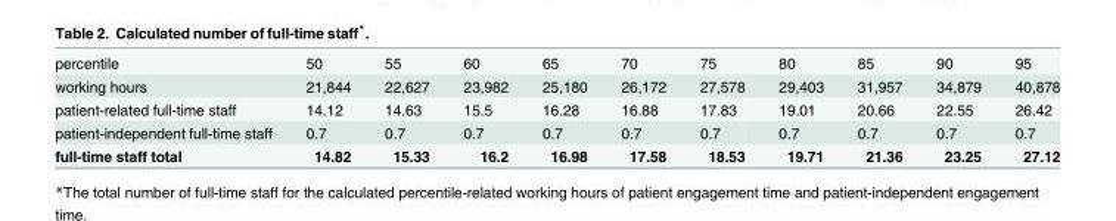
<table><tbody><tr><td>percentile</td><td>50</td><td>55</td><td>60</td><td>65</td><td>70</td><td>75</td><td>80</td><td>85</td><td>90</td><td>95</td></tr><tr><td>working hours</td><td>21,844</td><td>22,627</td><td>23,982</td><td>25,180</td><td>26,172</td><td>27,578</td><td>29,403</td><td>31,957</td><td>34,879</td><td>40,878</td></tr><tr><td>patient-related full-time staff</td><td>14.12</td><td>14.63</td><td>15.5</td><td>16.28</td><td>16.88</td><td>17.83</td><td>19.01</td><td>20.66</td><td>22.55</td><td>26.42</td></tr><tr><td>patient-independent full-time staff</td><td>0.7</td><td>0.7</td><td>0.7</td><td>0.7</td><td>0.7</td><td>0.7</td><td>0.7</td><td>0.7</td><td>0.7</td><td>0.7</td></tr><tr><td>full-time staff total</td><td>14.82</td><td>15.33</td><td>16.2</td><td>16.98</td><td>17.58</td><td>18.53</td><td>19.71</td><td>21.36</td><td>23.25</td><td>27.12</td></tr></tbody></table>